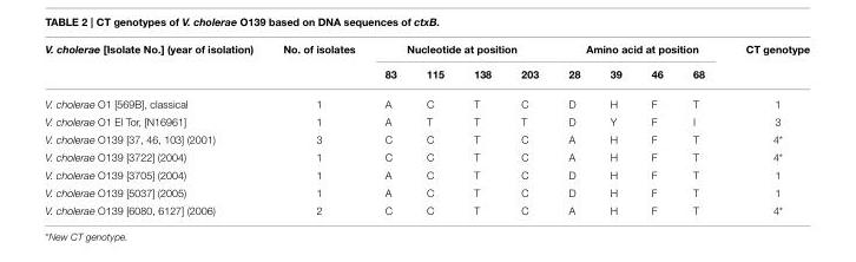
<table><thead><tr><td rowspan="2">V. cholerae [Isolate No.] (year of isolation)</td><td rowspan="2">No. of isolates</td><td colspan="4">Nucleotide at position</td><td colspan="4">Amino acid at position</td><td rowspan="2">CT genotype</td></tr><tr><td>83</td><td>115</td><td>138</td><td>203</td><td>28</td><td>39</td><td>46</td><td>68</td></tr></thead><tbody><tr><td>V. cholerae O1 [569B], classical</td><td>1</td><td>A</td><td>C</td><td>T</td><td>C</td><td>D</td><td>H</td><td>F</td><td>T</td><td>1</td></tr><tr><td>V. cholerae O1 El Tor, [N16961]</td><td>1</td><td>A</td><td>T</td><td>T</td><td>T</td><td>D</td><td>Y</td><td>F</td><td>I</td><td>3</td></tr><tr><td>V. cholerae O139 [37, 46, 103] (2001)</td><td>3</td><td>C</td><td>C</td><td>T</td><td>C</td><td>A</td><td>H</td><td>F</td><td>T</td><td>4*</td></tr><tr><td>V. cholerae O139 [3722] (2004)</td><td>1</td><td>C</td><td>C</td><td>T</td><td>C</td><td>A</td><td>H</td><td>F</td><td>T</td><td>4*</td></tr><tr><td>V. cholerae O139 [3705] (2004)</td><td>1</td><td>A</td><td>C</td><td>T</td><td>C</td><td>D</td><td>H</td><td>F</td><td>T</td><td>1</td></tr><tr><td>V. cholerae O139 [5037] (2005)</td><td>1</td><td>A</td><td>C</td><td>T</td><td>C</td><td>D</td><td>H</td><td>F</td><td>T</td><td>1</td></tr><tr><td>V. cholerae O139 [6080, 6127] (2006)</td><td>2</td><td>C</td><td>C</td><td>T</td><td>C</td><td>A</td><td>H</td><td>F</td><td>T</td><td>4*</td></tr></tbody></table>